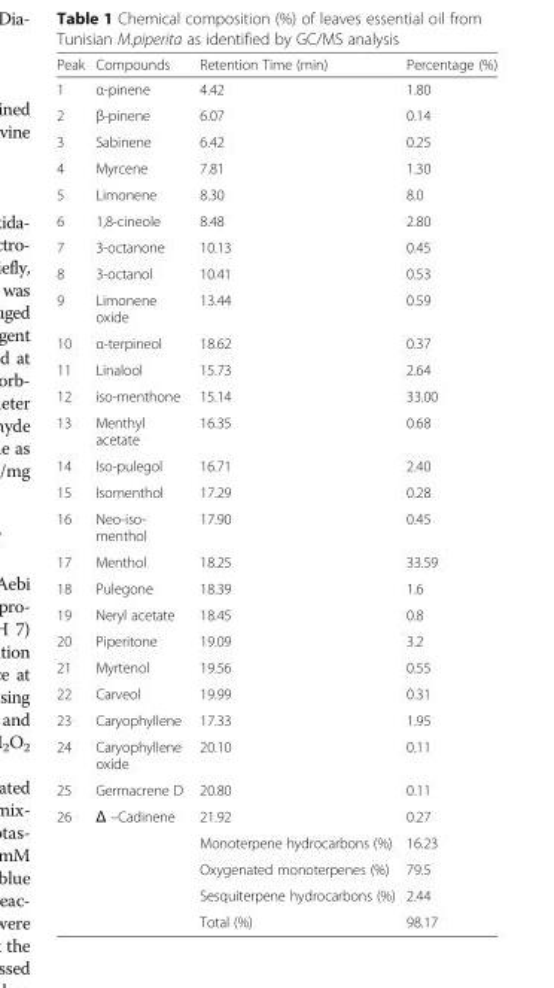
<table><thead><tr><td>Peak</td><td>Compounds</td><td>Retention Time (min)</td><td>Percentage (%)</td></tr></thead><tbody><tr><td>1</td><td>α-pinene</td><td>4.42</td><td>1.80</td></tr><tr><td>2</td><td>β-pinene</td><td>6.07</td><td>0.14</td></tr><tr><td>3</td><td>Sabinene</td><td>6.42</td><td>0.25</td></tr><tr><td>4</td><td>Myrcene</td><td>7.81</td><td>1.30</td></tr><tr><td>5</td><td>Limonene</td><td>8.30</td><td>8.0</td></tr><tr><td>6</td><td>1,8-cineole</td><td>8.48</td><td>2.80</td></tr><tr><td>7</td><td>3-octanone</td><td>10.13</td><td>0.45</td></tr><tr><td>8</td><td>3-octanol</td><td>10.41</td><td>0.53</td></tr><tr><td>9</td><td>Limonene oxide</td><td>13.44</td><td>0.59</td></tr><tr><td>10</td><td>α-terpineol</td><td>18.62</td><td>0.37</td></tr><tr><td>11</td><td>Linalool</td><td>15.73</td><td>2.64</td></tr><tr><td>12</td><td>iso-menthone</td><td>15.14</td><td>33.00</td></tr><tr><td>13</td><td>Menthyl acetate</td><td>16.35</td><td>0.68</td></tr><tr><td>14</td><td>Iso-pulegol</td><td>16.71</td><td>2.40</td></tr><tr><td>15</td><td>Isomenthol</td><td>17.29</td><td>0.28</td></tr><tr><td>16</td><td>Neo-iso- menthol</td><td>17.90</td><td>0.45</td></tr><tr><td>17</td><td>Menthol</td><td>18.25</td><td>33.59</td></tr><tr><td>18</td><td>Pulegone</td><td>18.39</td><td>1.6</td></tr><tr><td>19</td><td>Neryl acetate</td><td>18.45</td><td>0.8</td></tr><tr><td>20</td><td>Piperitone</td><td>19.09</td><td>3.2</td></tr><tr><td>21</td><td>Myrtenol</td><td>19.56</td><td>0.55</td></tr><tr><td>22</td><td>Carveol</td><td>19.99</td><td>0.31</td></tr><tr><td>23</td><td>Caryophyllene</td><td>17.33</td><td>1.95</td></tr><tr><td>24</td><td>Caryophyllene oxide</td><td>20.10</td><td>0.11</td></tr><tr><td>25</td><td>Germacrene D</td><td>20.80</td><td>0.11</td></tr><tr><td>26</td><td>Δ –Cadinene</td><td>21.92</td><td>0.27</td></tr><tr><td rowspan="4" colspan="2"></td><td>Monoterpene hydrocarbons (%)</td><td>16.23</td></tr><tr><td>Oxygenated monoterpenes (%)</td><td>79.5</td></tr><tr><td>Sesquiterpene hydrocarbons (%)</td><td>2.44</td></tr><tr><td>Total (%)</td><td>98.17</td></tr></tbody></table>